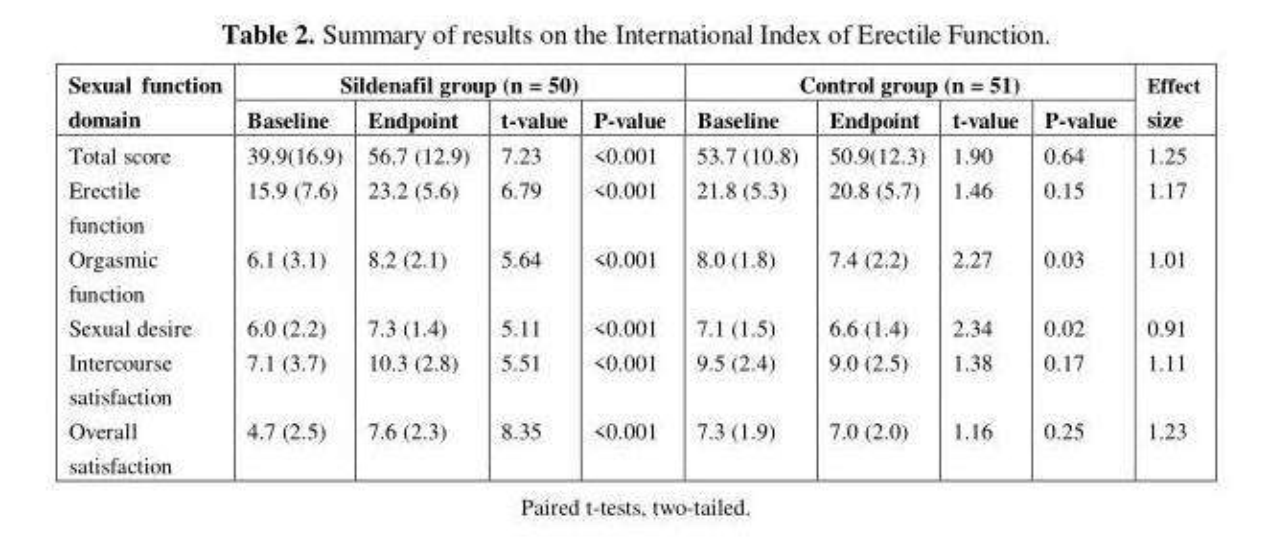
<table><thead><tr><td rowspan="2">Sexual function domain</td><td colspan="4">Sildenafil group (n = 50)</td><td colspan="4">Control group (n = 51)</td><td rowspan="2">Effect size</td></tr><tr><td>Baseline</td><td>Endpoint</td><td>t-value</td><td>P-value</td><td>Baseline</td><td>Endpoint</td><td>t-value</td><td>P-value</td></tr></thead><tbody><tr><td>Total score</td><td>39.9(16.9)</td><td>56.7 (12.9)</td><td>7.23</td><td>&lt;0.001</td><td>53.7 (10.8)</td><td>50.9(12.3)</td><td>1.90</td><td>0.64</td><td>1.25</td></tr><tr><td>Erectile function</td><td>15.9 (7.6)</td><td>23.2 (5.6)</td><td>6.79</td><td>&lt;0.001</td><td>21.8 (5.3)</td><td>20.8 (5.7)</td><td>1.46</td><td>0.15</td><td>1.17</td></tr><tr><td>Orgasmic function</td><td>6.1 (3.1)</td><td>8.2 (2.1)</td><td>5.64</td><td>&lt;0.001</td><td>8.0 (1.8)</td><td>7.4 (2.2)</td><td>2.27</td><td>0.03</td><td>1.01</td></tr><tr><td>Sexual desire</td><td>6.0 (2.2)</td><td>7.3 (1.4)</td><td>5.11</td><td>&lt;0.001</td><td>7.1 (1.5)</td><td>6.6 (1.4)</td><td>2.34</td><td>0.02</td><td>0.91</td></tr><tr><td>Intercourse satisfaction</td><td>7.1 (3.7)</td><td>10.3 (2.8)</td><td>5.51</td><td>&lt;0.001</td><td>9.5 (2.4)</td><td>9.0 (2.5)</td><td>1.38</td><td>0.17</td><td>1.11</td></tr><tr><td>Overall satisfaction</td><td>4.7 (2.5)</td><td>7.6 (2.3)</td><td>8.35</td><td>&lt;0.001</td><td>7.3 (1.9)</td><td>7.0 (2.0)</td><td>1.16</td><td>0.25</td><td>1.23</td></tr></tbody></table>